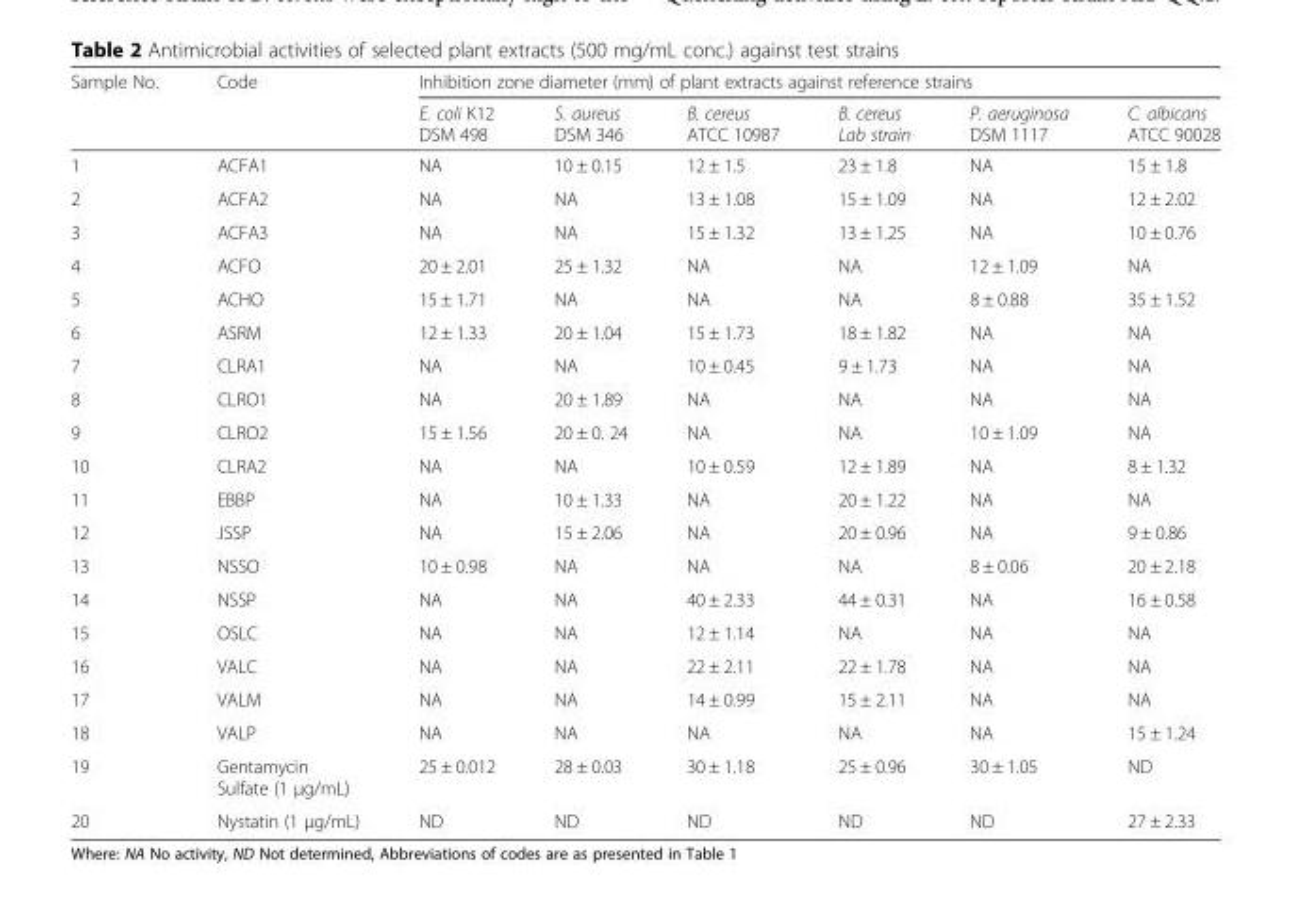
<table><thead><tr><td rowspan="2">Sample No.</td><td rowspan="2">Code</td><td colspan="6">Inhibition zone diameter (mm) of plant extracts against reference strains</td></tr><tr><td>E. coli K12 DSM 498</td><td>S. aureus DSM 346</td><td>B. cereus ATCC 10987</td><td>B. cereus Lab strain</td><td>P. aeruginosa DSM 1117</td><td>C. albicans ATCC 90028</td></tr></thead><tbody><tr><td>1</td><td>ACFA1</td><td>NA</td><td>10 ± 0.15</td><td>12 ± 1.5</td><td>23 ± 1.8</td><td>NA</td><td>15 ± 1.8</td></tr><tr><td>2</td><td>ACFA2</td><td>NA</td><td>NA</td><td>13 ± 1.08</td><td>15 ± 1.09</td><td>NA</td><td>12 ± 2.02</td></tr><tr><td>3</td><td>ACFA3</td><td>NA</td><td>NA</td><td>15 ± 1.32</td><td>13 ± 1.25</td><td>NA</td><td>10 ± 0.76</td></tr><tr><td>4</td><td>ACFO</td><td>20 ± 2.01</td><td>25 ± 1.32</td><td>NA</td><td>NA</td><td>12 ± 1.09</td><td>NA</td></tr><tr><td>5</td><td>ACHO</td><td>15 ± 1.71</td><td>NA</td><td>NA</td><td>NA</td><td>8 ± 0.88</td><td>35 ± 1.52</td></tr><tr><td>6</td><td>ASRM</td><td>12 ± 1.33</td><td>20 ± 1.04</td><td>15 ± 1.73</td><td>18 ± 1.82</td><td>NA</td><td>NA</td></tr><tr><td>7</td><td>CLRA1</td><td>NA</td><td>NA</td><td>10 ± 0.45</td><td>9 ± 1.73</td><td>NA</td><td>NA</td></tr><tr><td>8</td><td>CLRO1</td><td>NA</td><td>20 ± 1.89</td><td>NA</td><td>NA</td><td>NA</td><td>NA</td></tr><tr><td>9</td><td>CLRO2</td><td>15 ± 1.56</td><td>20 ± 0. 24</td><td>NA</td><td>NA</td><td>10 ± 1.09</td><td>NA</td></tr><tr><td>10</td><td>CLRA2</td><td>NA</td><td>NA</td><td>10 ± 0.59</td><td>12 ± 1.89</td><td>NA</td><td>8 ± 1.32</td></tr><tr><td>11</td><td>EBBP</td><td>NA</td><td>10 ± 1.33</td><td>NA</td><td>20 ± 1.22</td><td>NA</td><td>NA</td></tr><tr><td>12</td><td>JSSP</td><td>NA</td><td>15 ± 2.06</td><td>NA</td><td>20 ± 0.96</td><td>NA</td><td>9 ± 0.86</td></tr><tr><td>13</td><td>NSSO</td><td>10 ± 0.98</td><td>NA</td><td>NA</td><td>NA</td><td>8 ± 0.06</td><td>20 ± 2.18</td></tr><tr><td>14</td><td>NSSP</td><td>NA</td><td>NA</td><td>40 ± 2.33</td><td>44 ± 0.31</td><td>NA</td><td>16 ± 0.58</td></tr><tr><td>15</td><td>OSLC</td><td>NA</td><td>NA</td><td>12 ± 1.14</td><td>NA</td><td>NA</td><td>NA</td></tr><tr><td>16</td><td>VALC</td><td>NA</td><td>NA</td><td>22 ± 2.11</td><td>22 ± 1.78</td><td>NA</td><td>NA</td></tr><tr><td>17</td><td>VALM</td><td>NA</td><td>NA</td><td>14 ± 0.99</td><td>15 ± 2.11</td><td>NA</td><td>NA</td></tr><tr><td>18</td><td>VALP</td><td>NA</td><td>NA</td><td>NA</td><td>NA</td><td>NA</td><td>15 ± 1.24</td></tr><tr><td>19</td><td>Gentamycin Sulfate (1 μg/mL)</td><td>25 ± 0.012</td><td>28 ± 0.03</td><td>30 ± 1.18</td><td>25 ± 0.96</td><td>30 ± 1.05</td><td>ND</td></tr><tr><td>20</td><td>Nystatin (1 μg/mL)</td><td>ND</td><td>ND</td><td>ND</td><td>ND</td><td>ND</td><td>27 ± 2.33</td></tr></tbody></table>